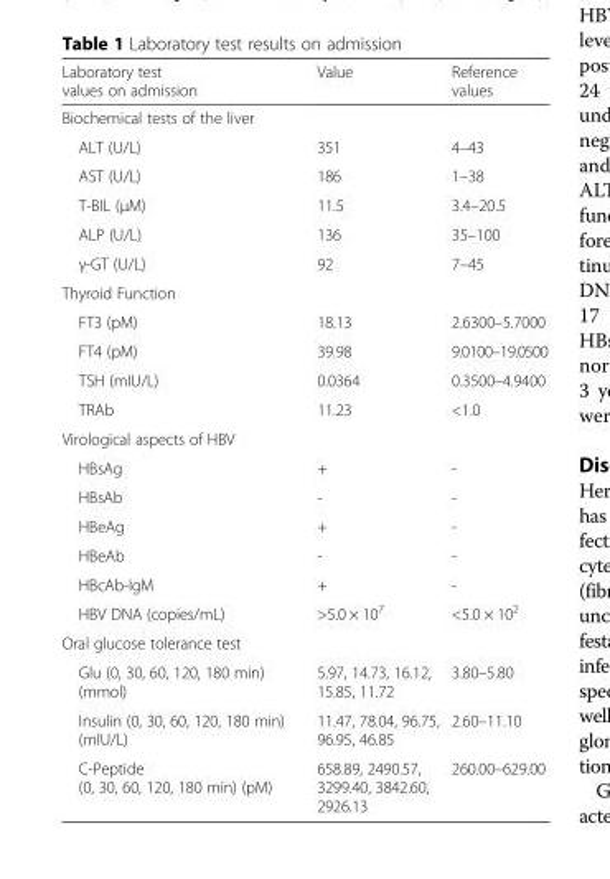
<table><thead><tr><td>Laboratory test values on admission</td><td>Value</td><td>Reference values</td></tr></thead><tbody><tr><td colspan="3">Biochemical tests of the liver</td></tr><tr><td>ALT (U/L)</td><td>351</td><td>4–43</td></tr><tr><td>AST (U/L)</td><td>186</td><td>1–38</td></tr><tr><td>T-BIL (μM)</td><td>11.5</td><td>3.4–20.5</td></tr><tr><td>ALP (U/L)</td><td>136</td><td>35–100</td></tr><tr><td>γ-GT (U/L)</td><td>92</td><td>7–45</td></tr><tr><td colspan="3">Thyroid Function</td></tr><tr><td>FT3 (pM)</td><td>18.13</td><td>2.6300–5.7000</td></tr><tr><td>FT4 (pM)</td><td>39.98</td><td>9.0100–19.0500</td></tr><tr><td>TSH (mIU/L)</td><td>0.0364</td><td>0.3500–4.9400</td></tr><tr><td>TRAb</td><td>11.23</td><td>&lt;1.0</td></tr><tr><td colspan="3">Virological aspects of HBV</td></tr><tr><td>HBsAg</td><td>+</td><td>-</td></tr><tr><td>HBsAb</td><td>-</td><td>-</td></tr><tr><td>HBeAg</td><td>+</td><td>-</td></tr><tr><td>HBeAb</td><td>-</td><td>-</td></tr><tr><td>HBcAb-IgM</td><td>+</td><td>-</td></tr><tr><td>HBV DNA (copies/mL)</td><td>&gt;5.0 × 10<sup>7</sup></td><td>&lt;5.0 × 10<sup>2</sup></td></tr><tr><td colspan="3">Oral glucose tolerance test</td></tr><tr><td>Glu (0, 30, 60, 120, 180 min) (mmol)</td><td>5.97, 14.73, 16.12, 15.85, 11.72</td><td>3.80–5.80</td></tr><tr><td>Insulin (0, 30, 60, 120, 180 min) (mIU/L)</td><td>11.47, 78.04, 96.75, 96.95, 46.85</td><td>2.60–11.10</td></tr><tr><td>C-Peptide (0, 30, 60, 120, 180 min) (pM)</td><td>658.89, 2490.57, 3299.40, 3842.60, 2926.13</td><td>260.00–629.00</td></tr></tbody></table>